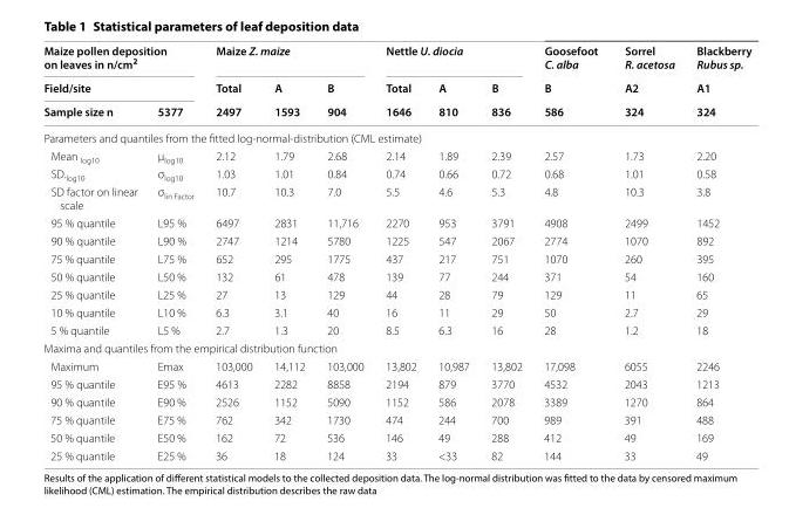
<table><thead><tr><td rowspan="2" colspan="2">Maize pollen deposition on leaves in n/cm<sup>2</sup> Field/site</td><td colspan="3">Maize Z. maize</td><td colspan="3">Nettle U. diocia</td><td rowspan="3">Goosefoot C. alba B 586</td><td rowspan="3">Sorrel R. acetosa A2 324</td><td rowspan="3">Blackberry Rubus sp. A1 324</td></tr><tr><td rowspan="2">Total 2497</td><td rowspan="2">A 1593</td><td rowspan="2">B 904</td><td rowspan="2">Total 1646</td><td rowspan="2">A 810</td><td rowspan="2">B 836</td></tr><tr><td>Sample size n</td><td>5377</td></tr></thead><tbody><tr><td colspan="11">Parameters and quantiles from the fitted log‑normal‑distribution (CML estimate)</td></tr><tr><td>Mean <sub>log10</sub></td><td>µ<sub>log10</sub></td><td>2.12</td><td>1.79</td><td>2.68</td><td>2.14</td><td>1.89</td><td>2.39</td><td>2.57</td><td>1.73</td><td>2.20</td></tr><tr><td>SD.<sub>log10</sub></td><td>σ<sub>log10</sub></td><td>1.03</td><td>1.01</td><td>0.84</td><td>0.74</td><td>0.66</td><td>0.72</td><td>0.68</td><td>1.01</td><td>0.58</td></tr><tr><td>SD factor on linear scale</td><td>σ<sub>lin Factor</sub></td><td>10.7</td><td>10.3</td><td>7.0</td><td>5.5</td><td>4.6</td><td>5.3</td><td>4.8</td><td>10.3</td><td>3.8</td></tr><tr><td>95 % quantile</td><td>L95 %</td><td>6497</td><td>2831</td><td>11,716</td><td>2270</td><td>953</td><td>3791</td><td>4908</td><td>2499</td><td>1452</td></tr><tr><td>90 % quantile</td><td>L90 %</td><td>2747</td><td>1214</td><td>5780</td><td>1225</td><td>547</td><td>2067</td><td>2774</td><td>1070</td><td>892</td></tr><tr><td>75 % quantile</td><td>L75 %</td><td>652</td><td>295</td><td>1775</td><td>437</td><td>217</td><td>751</td><td>1070</td><td>260</td><td>395</td></tr><tr><td>50 % quantile</td><td>L50 %</td><td>132</td><td>61</td><td>478</td><td>139</td><td>77</td><td>244</td><td>371</td><td>54</td><td>160</td></tr><tr><td>25 % quantile</td><td>L25 %</td><td>27</td><td>13</td><td>129</td><td>44</td><td>28</td><td>79</td><td>129</td><td>11</td><td>65</td></tr><tr><td>10 % quantile</td><td>L10 %</td><td>6.3</td><td>3.1</td><td>40</td><td>16</td><td>11</td><td>29</td><td>50</td><td>2.7</td><td>29</td></tr><tr><td>5 % quantile</td><td>L5 %</td><td>2.7</td><td>1.3</td><td>20</td><td>8.5</td><td>6.3</td><td>16</td><td>28</td><td>1.2</td><td>18</td></tr><tr><td colspan="11">Maxima and quantiles from the empirical distribution function</td></tr><tr><td>Maximum</td><td>Emax</td><td>103,000</td><td>14,112</td><td>103,000</td><td>13,802</td><td>10,987</td><td>13,802</td><td>17,098</td><td>6055</td><td>2246</td></tr><tr><td>95 % quantile</td><td>E95 %</td><td>4613</td><td>2282</td><td>8858</td><td>2194</td><td>879</td><td>3770</td><td>4532</td><td>2043</td><td>1213</td></tr><tr><td>90 % quantile</td><td>E90 %</td><td>2526</td><td>1152</td><td>5090</td><td>1152</td><td>586</td><td>2078</td><td>3389</td><td>1270</td><td>864</td></tr><tr><td>75 % quantile</td><td>E75 %</td><td>762</td><td>342</td><td>1730</td><td>474</td><td>244</td><td>700</td><td>989</td><td>391</td><td>488</td></tr><tr><td>50 % quantile</td><td>E50 %</td><td>162</td><td>72</td><td>536</td><td>146</td><td>49</td><td>288</td><td>412</td><td>49</td><td>169</td></tr><tr><td>25 % quantile</td><td>E25 %</td><td>36</td><td>18</td><td>124</td><td>33</td><td>&lt;33</td><td>82</td><td>144</td><td>33</td><td>49</td></tr></tbody></table>